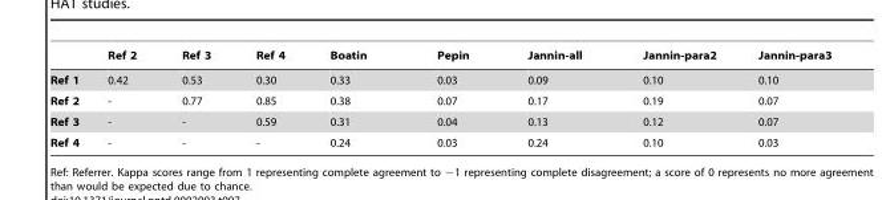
<table><thead><tr><td></td><td>Ref 2</td><td>Ref 3</td><td>Ref 4</td><td>Boatin</td><td>Pepin</td><td>Jannin-all</td><td>Jannin-para2</td><td>Jannin-para3</td></tr></thead><tbody><tr><td>Ref 1</td><td>0.42</td><td>0.53</td><td>0.30</td><td>0.33</td><td>0.03</td><td>0.09</td><td>0.10</td><td>0.10</td></tr><tr><td>Ref 2</td><td>-</td><td>0.77</td><td>0.85</td><td>0.38</td><td>0.07</td><td>0.17</td><td>0.19</td><td>0.07</td></tr><tr><td>Ref 3</td><td>-</td><td>-</td><td>0.59</td><td>0.31</td><td>0.04</td><td>0.13</td><td>0.12</td><td>0.07</td></tr><tr><td>Ref 4</td><td>-</td><td>-</td><td>-</td><td>0.24</td><td>0.03</td><td>0.24</td><td>0.10</td><td>0.03</td></tr></tbody></table>